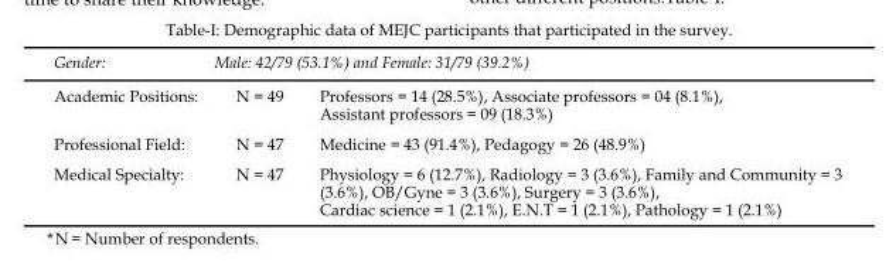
<table><thead><tr><td rowspan="2">Gender: Academic Positions:</td><td colspan="2">Male: 42/79 (53.1%) and Female: 31/79 (39.2%)</td></tr><tr><td>N = 49</td><td>Professors = 14 (28.5%), Associate professors = 04 (8.1%), Assistant professors = 09 (18.3%)</td></tr></thead><tbody><tr><td>Professional Field:</td><td>N = 47</td><td>Medicine = 43 (91.4%), Pedagogy = 26 (48.9%)</td></tr><tr><td>Medical Specialty:</td><td>N = 47</td><td>Physiology = 6 (12.7%), Radiology = 3 (3.6%), Family and Community = 3 (3.6%), OB/Gyne = 3 (3.6%), Surgery = 3 (3.6%), Cardiac science = 1 (2.1%), E.N.T = 1 (2.1%), Pathology = 1 (2.1%)</td></tr></tbody></table>